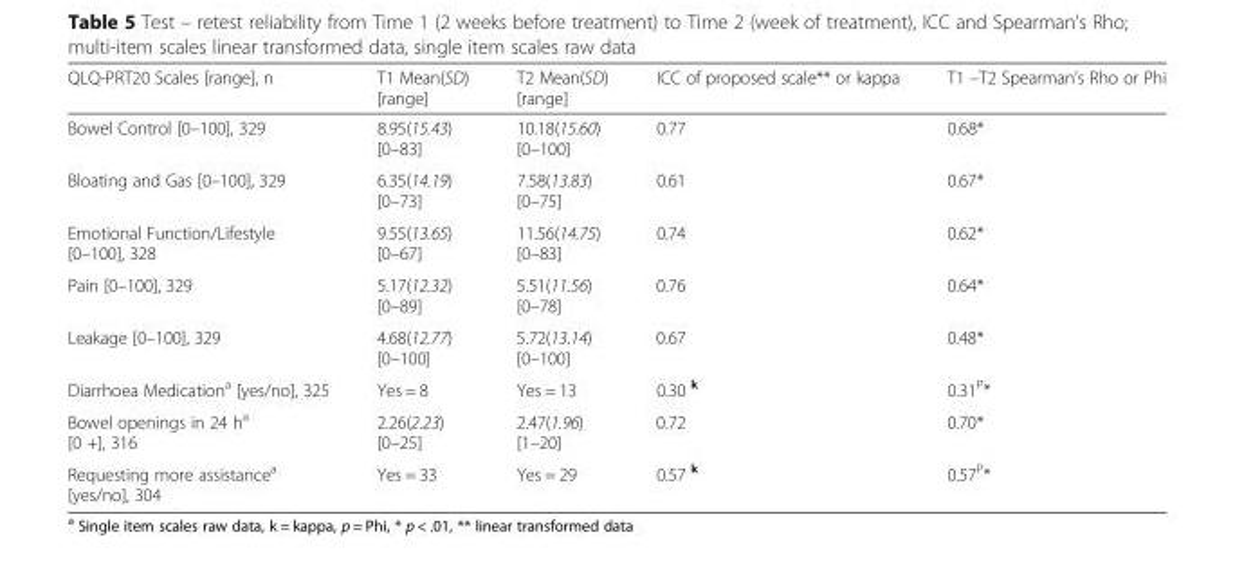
<table><thead><tr><td>QLQ-PRT20 Scales [range], n</td><td>T1 Mean(SD) [range]</td><td>T2 Mean(SD) [range]</td><td>ICC of proposed scale** or kappa</td><td>T1 –T2 Spearman’s Rho or Phi</td></tr></thead><tbody><tr><td>Bowel Control [0–100], 329</td><td>8.95(15.43) [0–83]</td><td>10.18(15.60) [0–100]</td><td>0.77</td><td>0.68*</td></tr><tr><td>Bloating and Gas [0–100], 329</td><td>6.35(14.19) [0–73]</td><td>7.58(13.83) [0–75]</td><td>0.61</td><td>0.67*</td></tr><tr><td>Emotional Function/Lifestyle [0–100], 328</td><td>9.55(13.65) [0–67]</td><td>11.56(14.75) [0–83]</td><td>0.74</td><td>0.62*</td></tr><tr><td>Pain [0–100], 329</td><td>5.17(12.32) [0–89]</td><td>5.51(11.56) [0–78]</td><td>0.76</td><td>0.64*</td></tr><tr><td>Leakage [0–100], 329</td><td>4.68(12.77) [0–100]</td><td>5.72(13.14) [0–100]</td><td>0.67</td><td>0.48*</td></tr><tr><td>Diarrhoea Medication<sup>a</sup> [yes/no], 325</td><td>Yes = 8</td><td>Yes = 13</td><td>0.30 <sup>k</sup></td><td>0.31<sup>P</sup>*</td></tr><tr><td>Bowel openings in 24 h<sup>a</sup> [0 +], 316</td><td>2.26(2.23) [0–25]</td><td>2.47(1.96) [1–20]</td><td>0.72</td><td>0.70*</td></tr><tr><td>Requesting more assistance<sup>a</sup> [yes/no], 304</td><td>Yes = 33</td><td>Yes = 29</td><td>0.57 <sup>k</sup></td><td>0.57<sup>P</sup>*</td></tr></tbody></table>